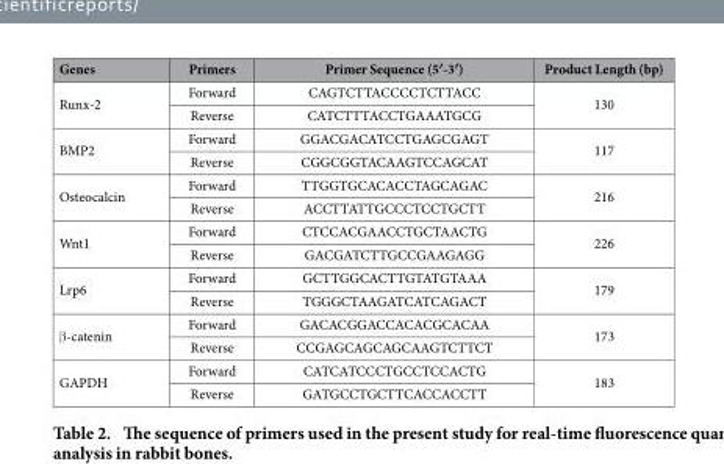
<table><thead><tr><td>Genes</td><td>Primers</td><td>Primer Sequence (5′-3′)</td><td>Product Length (bp)</td></tr></thead><tbody><tr><td rowspan="2">Runx-2</td><td>Forward</td><td>CAGTCTTACCCCTCTTACC</td><td rowspan="2">130</td></tr><tr><td>Reverse</td><td>CATCTTTACCTGAAATGCG</td></tr><tr><td rowspan="2">BMP2</td><td>Forward</td><td>GGACGACATCCTGAGCGAGT</td><td rowspan="2">117</td></tr><tr><td>Reverse</td><td>CGGCGGTACAAGTCCAGCAT</td></tr><tr><td rowspan="2">Osteocalcin</td><td>Forward</td><td>TTGGTGCACACCTAGCAGAC</td><td rowspan="2">216</td></tr><tr><td>Reverse</td><td>ACCTTATTGCCCTCCTGCTT</td></tr><tr><td rowspan="2">Wnt1</td><td>Forward</td><td>CTCCACGAACCTGCTAACTG</td><td rowspan="2">226</td></tr><tr><td>Reverse</td><td>GACGATCTTGCCGAAGAGG</td></tr><tr><td rowspan="2">Lrp6</td><td>Forward</td><td>GCTTGGCACTTGTATGTAAA</td><td rowspan="2">179</td></tr><tr><td>Reverse</td><td>TGGGCTAAGATCATCAGACT</td></tr><tr><td rowspan="2">β -catenin</td><td>Forward</td><td>GACACGGACCACACGCACAA</td><td rowspan="2">173</td></tr><tr><td>Reverse</td><td>CCGAGCAGCAGCAAGTCTTCT</td></tr><tr><td rowspan="2">GAPDH</td><td>Forward</td><td>CATCATCCCTGCCTCCACTG</td><td rowspan="2">183</td></tr><tr><td>Reverse</td><td>GATGCCTGCTTCACCACCTT</td></tr></tbody></table>